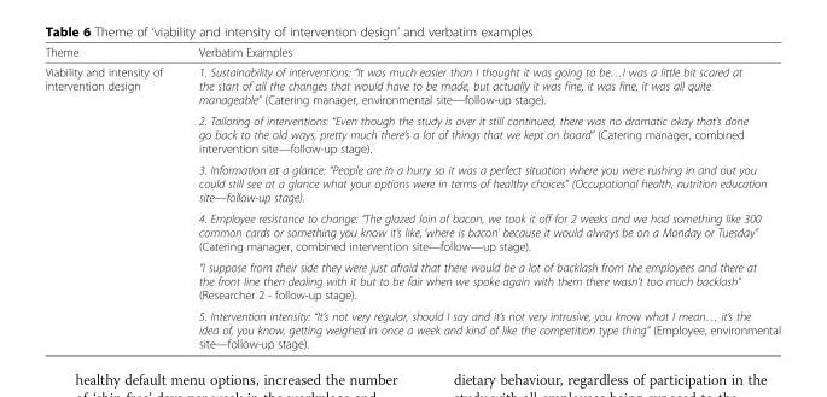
<table><thead><tr><td>Theme</td><td>Verbatim Examples</td></tr></thead><tbody><tr><td rowspan="6">Viability and intensity of intervention design</td><td>1. Sustainability of interventions: “It was much easier than I thought it was going to be…I was a little bit scared at the start of all the changes that would have to be made, but actually it was fine, it was fine, it was all quite manageable” (Catering manager, environmental site—follow-up stage).</td></tr><tr><td>2. Tailoring of interventions: “Even though the study is over it still continued, there was no dramatic okay that’s done go back to the old ways, pretty much there’s a lot of things that we kept on board” (Catering manager, combined intervention site—follow-up stage).</td></tr><tr><td>3. Information at a glance: “People are in a hurry so it was a perfect situation where you were rushing in and out you could still see at a glance what your options were in terms of healthy choices” (Occupational health, nutrition education site—follow-up stage).</td></tr><tr><td>4. Employee resistance to change: “The glazed loin of bacon, we took it off for 2 weeks and we had something like 300 common cards or something you know it’s like, ‘where is bacon’ because it would always be on a Monday or Tuesday” (Catering manager, combined intervention site—follow—up stage).</td></tr><tr><td>“I suppose from their side they were just afraid that there would be a lot of backlash from the employees and there at the front line then dealing with it but to be fair when we spoke again with them there wasn’t too much backlash” (Researcher 2 - follow-up stage).</td></tr><tr><td>5. Intervention intensity: “It’s not very regular, should I say and it’s not very intrusive, you know what I mean… it’s the idea of, you know, getting weighed in once a week and kind of like the competition type thing” (Employee, environmental site—follow-up stage).</td></tr></tbody></table>